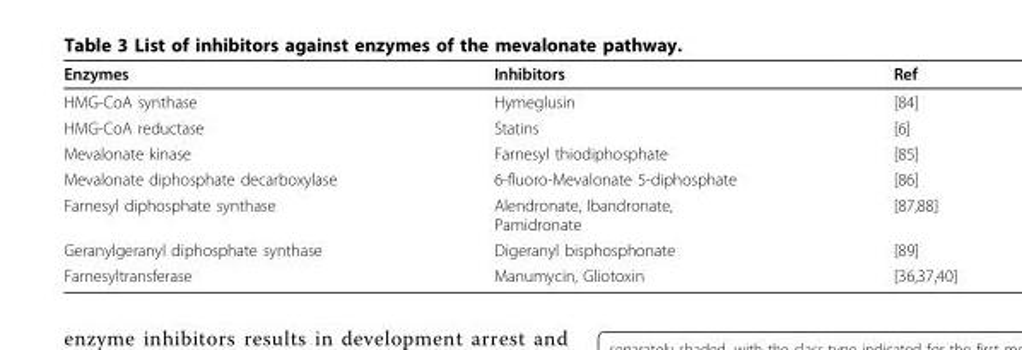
<table><thead><tr><td>Enzymes</td><td>Inhibitors</td><td>Ref</td></tr></thead><tbody><tr><td>HMG-CoA synthase</td><td>Hymeglusin</td><td>[84]</td></tr><tr><td>HMG-CoA reductase</td><td>Statins</td><td>[6]</td></tr><tr><td>Mevalonate kinase</td><td>Farnesyl thiodiphosphate</td><td>[85]</td></tr><tr><td>Mevalonate diphosphate decarboxylase</td><td>6-fluoro-Mevalonate 5-diphosphate</td><td>[86]</td></tr><tr><td>Farnesyl diphosphate synthase</td><td>Alendronate, Ibandronate, Pamidronate</td><td>[87,88]</td></tr><tr><td>Geranylgeranyl diphosphate synthase</td><td>Digeranyl bisphosphonate</td><td>[89]</td></tr><tr><td>Farnesyltransferase</td><td>Manumycin, Gliotoxin</td><td>[36,37,40]</td></tr></tbody></table>